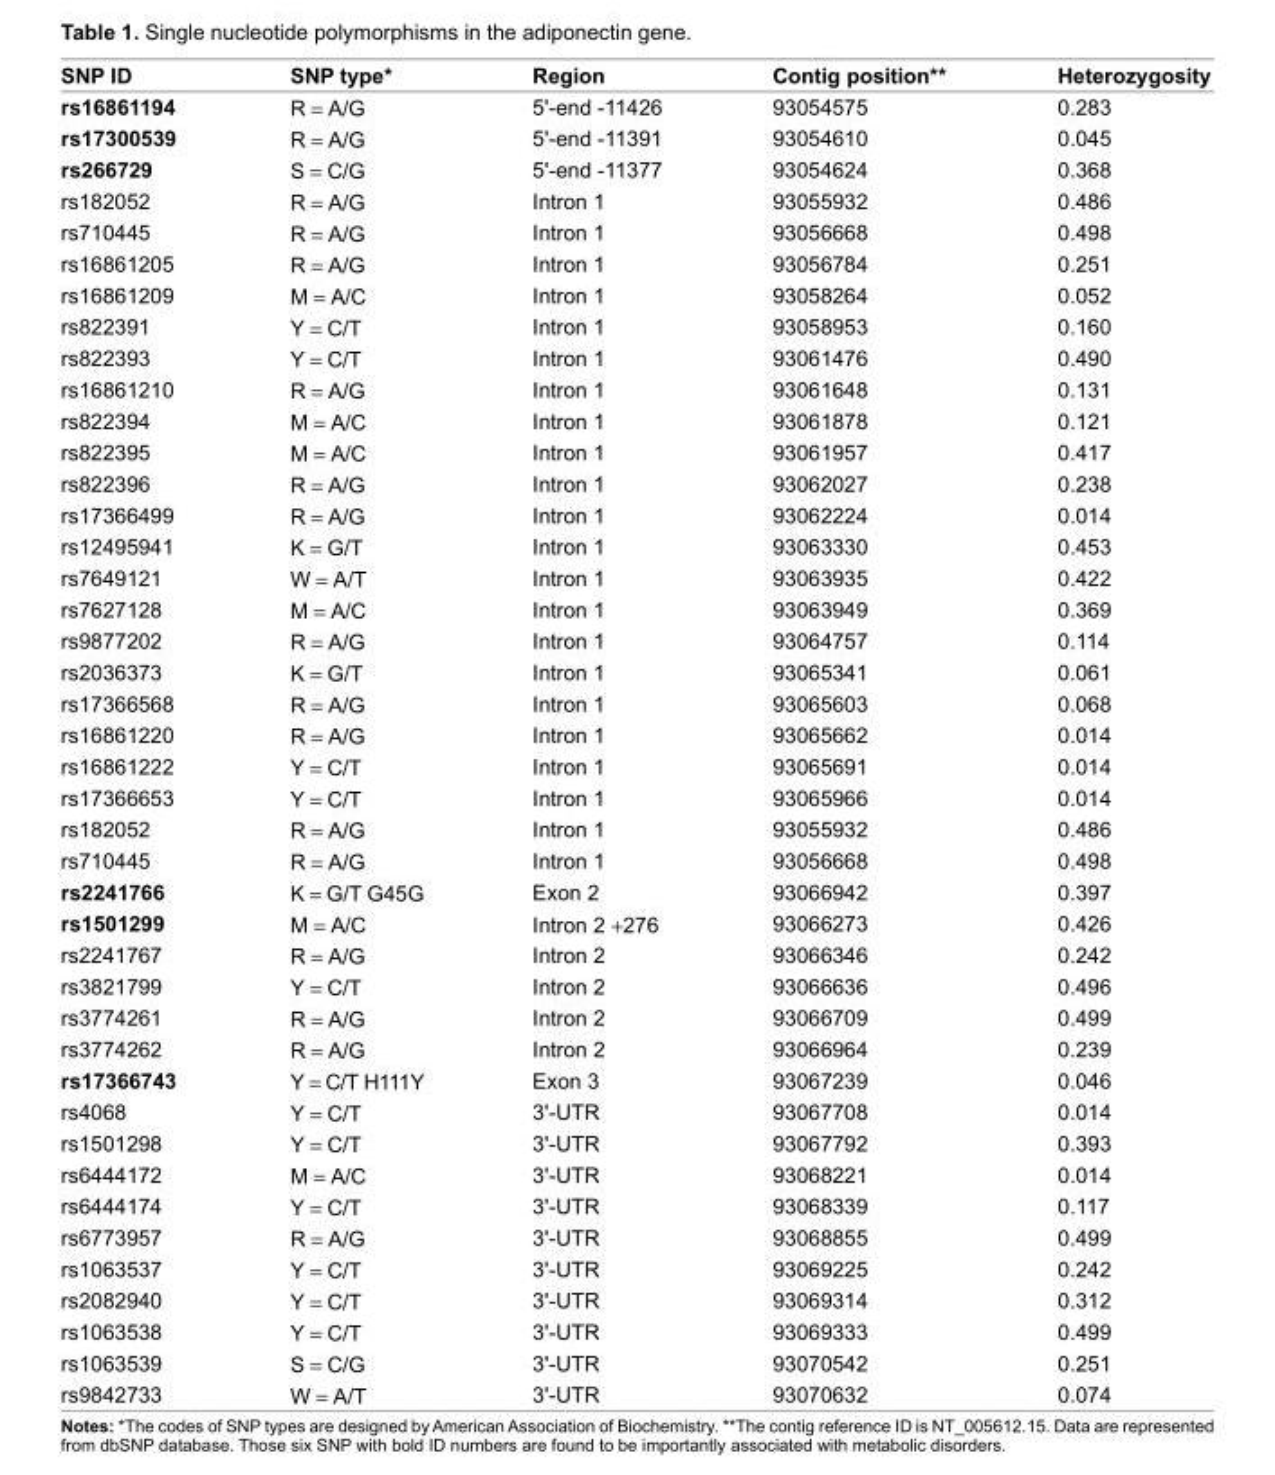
<table><thead><tr><td>snp ID</td><td>snp type*</td><td>Region</td><td>contig position**</td><td>Heterozygosity</td></tr></thead><tbody><tr><td>rs16861194</td><td>R = A/G</td><td>5&#x27;-end -11426</td><td>93054575</td><td>0.283</td></tr><tr><td>rs17300539</td><td>R = A/G</td><td>5&#x27;-end -11391</td><td>93054610</td><td>0.045</td></tr><tr><td>rs266729</td><td>S = C/G</td><td>5&#x27;-end -11377</td><td>93054624</td><td>0.368</td></tr><tr><td>rs182052</td><td>R = A/G</td><td>Intron 1</td><td>93055932</td><td>0.486</td></tr><tr><td>rs710445</td><td>R = A/G</td><td>Intron 1</td><td>93056668</td><td>0.498</td></tr><tr><td>rs16861205</td><td>R = A/G</td><td>Intron 1</td><td>93056784</td><td>0.251</td></tr><tr><td>rs16861209</td><td>M = A/C</td><td>Intron 1</td><td>93058264</td><td>0.052</td></tr><tr><td>rs822391</td><td>Y = C/T</td><td>Intron 1</td><td>93058953</td><td>0.160</td></tr><tr><td>rs822393</td><td>Y = C/T</td><td>Intron 1</td><td>93061476</td><td>0.490</td></tr><tr><td>rs16861210</td><td>R = A/G</td><td>Intron 1</td><td>93061648</td><td>0.131</td></tr><tr><td>rs822394</td><td>M = A/C</td><td>Intron 1</td><td>93061878</td><td>0.121</td></tr><tr><td>rs822395</td><td>M = A/C</td><td>Intron 1</td><td>93061957</td><td>0.417</td></tr><tr><td>rs822396</td><td>R = A/G</td><td>Intron 1</td><td>93062027</td><td>0.238</td></tr><tr><td>rs17366499</td><td>R = A/G</td><td>Intron 1</td><td>93062224</td><td>0.014</td></tr><tr><td>rs12495941</td><td>K = G/T</td><td>Intron 1</td><td>93063330</td><td>0.453</td></tr><tr><td>rs7649121</td><td>w = A/T</td><td>Intron 1</td><td>93063935</td><td>0.422</td></tr><tr><td>rs7627128</td><td>M = A/C</td><td>Intron 1</td><td>93063949</td><td>0.369</td></tr><tr><td>rs9877202</td><td>R = A/G</td><td>Intron 1</td><td>93064757</td><td>0.114</td></tr><tr><td>rs2036373</td><td>K = G/T</td><td>Intron 1</td><td>93065341</td><td>0.061</td></tr><tr><td>rs17366568</td><td>R = A/G</td><td>Intron 1</td><td>93065603</td><td>0.068</td></tr><tr><td>rs16861220</td><td>R = A/G</td><td>Intron 1</td><td>93065662</td><td>0.014</td></tr><tr><td>rs16861222</td><td>Y = C/T</td><td>Intron 1</td><td>93065691</td><td>0.014</td></tr><tr><td>rs17366653</td><td>Y = C/T</td><td>Intron 1</td><td>93065966</td><td>0.014</td></tr><tr><td>rs182052</td><td>R = A/G</td><td>Intron 1</td><td>93055932</td><td>0.486</td></tr><tr><td>rs710445</td><td>R = A/G</td><td>Intron 1</td><td>93056668</td><td>0.498</td></tr><tr><td>rs2241766</td><td>K = G/T G45G</td><td>exon 2</td><td>93066942</td><td>0.397</td></tr><tr><td>rs1501299</td><td>M = A/C</td><td>Intron 2 +276</td><td>93066273</td><td>0.426</td></tr><tr><td>rs2241767</td><td>R = A/G</td><td>Intron 2</td><td>93066346</td><td>0.242</td></tr><tr><td>rs3821799</td><td>Y = C/T</td><td>Intron 2</td><td>93066636</td><td>0.496</td></tr><tr><td>rs3774261</td><td>R = A/G</td><td>Intron 2</td><td>93066709</td><td>0.499</td></tr><tr><td>rs3774262</td><td>R = A/G</td><td>Intron 2</td><td>93066964</td><td>0.239</td></tr><tr><td>rs17366743</td><td>Y = C/T H111Y</td><td>exon 3</td><td>93067239</td><td>0.046</td></tr><tr><td>rs4068</td><td>Y = C/T</td><td>3&#x27;-UTR</td><td>93067708</td><td>0.014</td></tr><tr><td>rs1501298</td><td>Y = C/T</td><td>3&#x27;-UTR</td><td>93067792</td><td>0.393</td></tr><tr><td>rs6444172</td><td>M = A/C</td><td>3&#x27;-UTR</td><td>93068221</td><td>0.014</td></tr><tr><td>rs6444174</td><td>Y = C/T</td><td>3&#x27;-UTR</td><td>93068339</td><td>0.117</td></tr><tr><td>rs6773957</td><td>R = A/G</td><td>3&#x27;-UTR</td><td>93068855</td><td>0.499</td></tr><tr><td>rs1063537</td><td>Y = C/T</td><td>3&#x27;-UTR</td><td>93069225</td><td>0.242</td></tr><tr><td>rs2082940</td><td>Y = C/T</td><td>3&#x27;-UTR</td><td>93069314</td><td>0.312</td></tr><tr><td>rs1063538</td><td>Y = C/T</td><td>3&#x27;-UTR</td><td>93069333</td><td>0.499</td></tr><tr><td>rs1063539</td><td>S = C/G</td><td>3&#x27;-UTR</td><td>93070542</td><td>0.251</td></tr><tr><td>rs9842733</td><td>w = A/T</td><td>3&#x27;-UTR</td><td>93070632</td><td>0.074</td></tr></tbody></table>